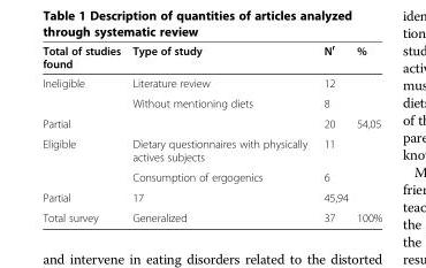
<table><thead><tr><td>Total of studies found</td><td>Type of study</td><td>N<sup>r</sup></td><td>%</td></tr></thead><tbody><tr><td rowspan="2">Ineligible</td><td>Literature review</td><td>12</td><td></td></tr><tr><td>Without mentioning diets</td><td>8</td><td></td></tr><tr><td>Partial</td><td></td><td>20</td><td>54,05</td></tr><tr><td rowspan="2">Eligible</td><td>Dietary questionnaires with physically actives subjects</td><td>11</td><td></td></tr><tr><td>Consumption of ergogenics</td><td>6</td><td></td></tr><tr><td>Partial</td><td>17</td><td>45,94</td><td></td></tr><tr><td>Total survey</td><td>Generalized</td><td>37</td><td>100%</td></tr></tbody></table>